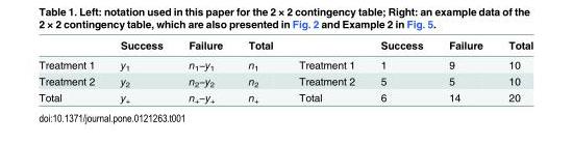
<table><thead><tr><td></td><td>Success</td><td>Failure</td><td>Total</td><td></td><td>Success</td><td>Failure</td><td>Total</td></tr></thead><tbody><tr><td>Treatment 1</td><td>y<sub>1</sub></td><td>n<sub>1</sub>−y<sub>1</sub></td><td>n<sub>1</sub></td><td>Treatment 1</td><td>1</td><td>9</td><td>10</td></tr><tr><td>Treatment 2</td><td>y<sub>2</sub></td><td>n<sub>2</sub>−y<sub>2</sub></td><td>n<sub>2</sub></td><td>Treatment 2</td><td>5</td><td>5</td><td>10</td></tr><tr><td>Total</td><td>y<sub>+</sub></td><td>n<sub>+</sub>−y<sub>+</sub></td><td>n<sub>+</sub></td><td>Total</td><td>6</td><td>14</td><td>20</td></tr></tbody></table>